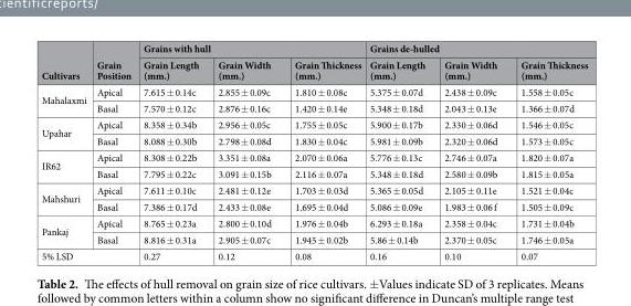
<table><thead><tr><td rowspan="2">Cultivars</td><td rowspan="2">Grain Position</td><td colspan="3">Grains with hull</td><td colspan="3">Grains de-hulled</td></tr><tr><td>Grain Length (mm.)</td><td>Grain Width (mm.)</td><td>Grain Thickness (mm.)</td><td>Grain Length (mm.)</td><td>Grain Width (mm.)</td><td>Grain Thickness (mm.)</td></tr></thead><tbody><tr><td rowspan="2">Mahalaxmi</td><td>Apical</td><td>7.615 ± 0.14c</td><td>2.855 ± 0.09c</td><td>1.810 ± 0.08c</td><td>5.375 ± 0.07d</td><td>2.438 ± 0.09c</td><td>1.558 ± 0.05c</td></tr><tr><td>Basal</td><td>7.570 ± 0.12c</td><td>2.876 ± 0.16c</td><td>1.420 ± 0.14e</td><td>5.348 ± 0.18d</td><td>2.043 ± 0.13e</td><td>1.366 ± 0.07d</td></tr><tr><td rowspan="2">Upahar</td><td>Apical</td><td>8.358 ± 0.34b</td><td>2.956 ± 0.05c</td><td>1.755 ± 0.05c</td><td>5.900 ± 0.17b</td><td>2.330 ± 0.06d</td><td>1.546 ± 0.05c</td></tr><tr><td>Basal</td><td>8.088 ± 0.30b</td><td>2.798 ± 0.08d</td><td>1.830 ± 0.04c</td><td>5.981 ± 0.09b</td><td>2.320 ± 0.06d</td><td>1.573 ± 0.05c</td></tr><tr><td rowspan="2">IR62</td><td>Apical</td><td>8.308 ± 0.22b</td><td>3.351 ± 0.08a</td><td>2.070 ± 0.06a</td><td>5.776 ± 0.13c</td><td>2.746 ± 0.07a</td><td>1.820 ± 0.07a</td></tr><tr><td>Basal</td><td>7.795 ± 0.22c</td><td>3.091 ± 0.15b</td><td>2.116 ± 0.07a</td><td>5.348 ± 0.18d</td><td>2.580 ± 0.09b</td><td>1.815 ± 0.05a</td></tr><tr><td rowspan="2">Mahshuri</td><td>Apical</td><td>7.611 ± 0.10c</td><td>2.481 ± 0.12e</td><td>1.703 ± 0.03d</td><td>5.365 ± 0.05d</td><td>2.105 ± 0.11e</td><td>1.521 ± 0.04c</td></tr><tr><td>Basal</td><td>7.386 ± 0.17d</td><td>2.433 ± 0.08e</td><td>1.695 ± 0.04d</td><td>5.086 ± 0.09e</td><td>1.983 ± 0.06 f</td><td>1.505 ± 0.09c</td></tr><tr><td rowspan="2">Pankaj</td><td>Apical</td><td>8.765 ± 0.23a</td><td>2.800 ± 0.10d</td><td>1.976 ± 0.04b</td><td>6.293 ± 0.18a</td><td>2.358 ± 0.04c</td><td>1.731 ± 0.04b</td></tr><tr><td>Basal</td><td>8.816 ± 0.31a</td><td>2.905 ± 0.07c</td><td>1.945 ± 0.02b</td><td>5.86 ± 0.14b</td><td>2.370 ± 0.05c</td><td>1.746 ± 0.05a</td></tr><tr><td colspan="2">5% LSD</td><td>0.27</td><td>0.12</td><td>0.08</td><td>0.16</td><td>0.10</td><td>0.07</td></tr></tbody></table>